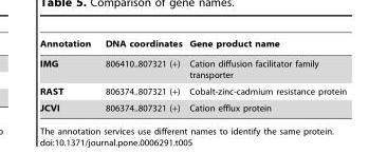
<table><thead><tr><td>Annotation</td><td>DNA coordinates</td><td>Gene product name</td></tr></thead><tbody><tr><td>IMG</td><td>806410..807321 (+)</td><td>Cation diffusion facilitator family transporter</td></tr><tr><td>RAST</td><td>806374..807321 (+)</td><td>Cobalt-zinc-cadmium resistance protein</td></tr><tr><td>JCVI</td><td>806374..807321 (+)</td><td>Cation efflux protein</td></tr></tbody></table>